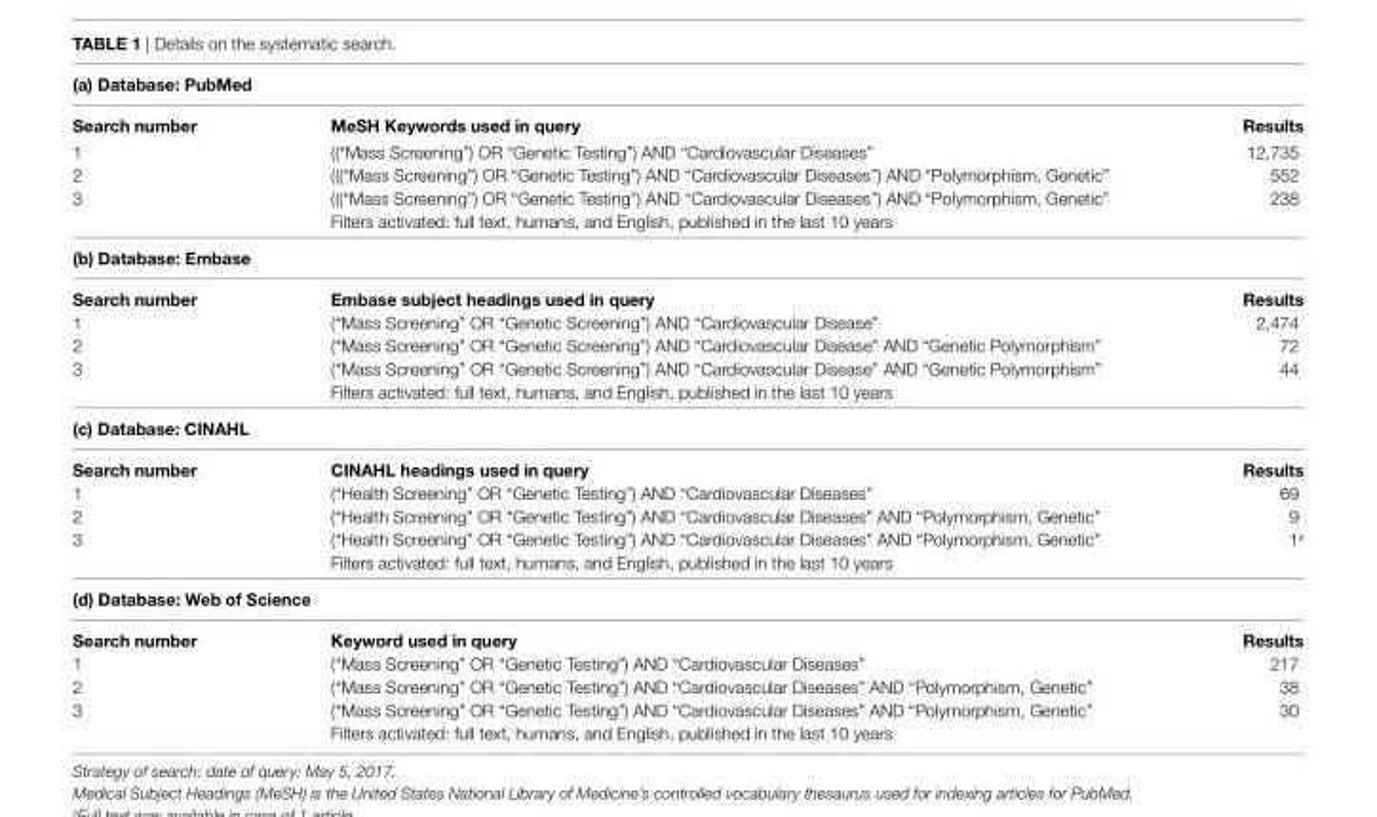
<table><thead><tr><td colspan="3">(a) Database: PubMed</td></tr><tr><td>Search number</td><td>MeSH Keywords used in query</td><td>Results</td></tr></thead><tbody><tr><td>1</td><td>((“Mass Screening”) OR “Genetic Testing”) AND “Cardiovascular Diseases”</td><td>12,735</td></tr><tr><td>2</td><td>(((“Mass Screening”) OR “Genetic Testing”) AND “Cardiovascular Diseases”) AND “Polymorphism, Genetic”</td><td>552</td></tr><tr><td rowspan="2">3</td><td>(((“Mass Screening”) OR “Genetic Testing”) AND “Cardiovascular Diseases”) AND “Polymorphism, Genetic”</td><td rowspan="2">238</td></tr><tr><td>Filters activated: full text, humans, and English, published in the last 10 years</td></tr><tr><td colspan="3">(b) Database: embase</td></tr><tr><td>Search number</td><td>embase subject headings used in query</td><td>Results</td></tr><tr><td>1</td><td>(“Mass Screening” OR “Genetic Screening”) AND “Cardiovascular Disease”</td><td>2,474</td></tr><tr><td>2</td><td>(“Mass Screening” OR “Genetic Screening”) AND “Cardiovascular Disease” AND “Genetic Polymorphism”</td><td>72</td></tr><tr><td rowspan="2">3</td><td>(“Mass Screening” OR “Genetic Screening”) AND “Cardiovascular Disease” AND “Genetic Polymorphism”</td><td rowspan="2">44</td></tr><tr><td>Filters activated: full text, humans, and English, published in the last 10 years</td></tr><tr><td colspan="3">(c) Database: CiNAHL</td></tr><tr><td>Search number</td><td>CiNAHL headings used in query</td><td>Results</td></tr><tr><td>1</td><td>(“Health Screening” OR “Genetic Testing”) AND “Cardiovascular Diseases”</td><td>69</td></tr><tr><td>2</td><td>(“Health Screening” OR “Genetic Testing”) AND “Cardiovascular Diseases” AND “Polymorphism, Genetic”</td><td>9</td></tr><tr><td rowspan="2">3</td><td>(“Health Screening” OR “Genetic Testing”) AND “Cardiovascular Diseases” AND “Polymorphism, Genetic”</td><td rowspan="2">1<sup>a</sup></td></tr><tr><td>Filters activated: full text, humans, and English, published in the last 10 years</td></tr><tr><td colspan="3">(d) Database: web of Science</td></tr><tr><td>Search number</td><td>Keyword used in query</td><td>Results</td></tr><tr><td>1</td><td>(“Mass Screening” OR “Genetic Testing”) AND “Cardiovascular Diseases”</td><td>217</td></tr><tr><td>2</td><td>(“Mass Screening” OR “Genetic Testing”) AND “Cardiovascular Diseases” AND “Polymorphism, Genetic”</td><td>38</td></tr><tr><td rowspan="2">3</td><td>(“Mass Screening” OR “Genetic Testing”) AND “Cardiovascular Diseases” AND “Polymorphism, Genetic”</td><td rowspan="2">30</td></tr><tr><td>Filters activated: full text, humans, and English, published in the last 10 years</td></tr></tbody></table>